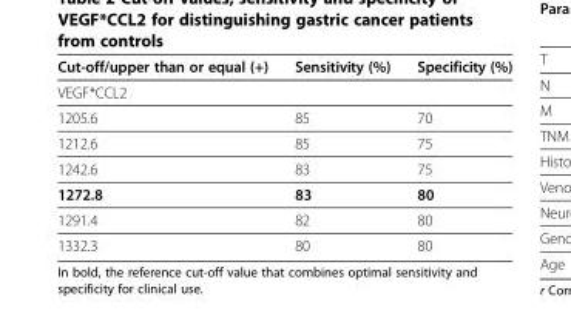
<table><thead><tr><td>Cut-off/upper than or equal (+)</td><td>Sensitivity (%)</td><td>Specificity (%)</td></tr></thead><tbody><tr><td colspan="3">VEGF*CCL2</td></tr><tr><td>1205.6</td><td>85</td><td>70</td></tr><tr><td>1212.6</td><td>85</td><td>75</td></tr><tr><td>1242.6</td><td>83</td><td>75</td></tr><tr><td>1272.8</td><td>83</td><td>80</td></tr><tr><td>1291.4</td><td>82</td><td>80</td></tr><tr><td>1332.3</td><td>80</td><td>80</td></tr></tbody></table>